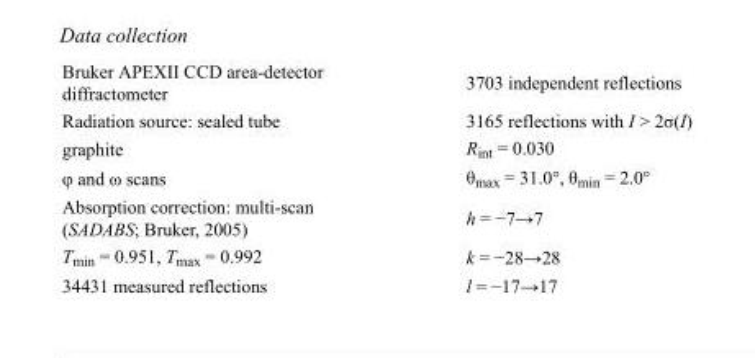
<table><tbody><tr><td>Bruker APEXII CCD area-detector diffractometer</td><td>3703 independent reflections</td></tr><tr><td>Radiation source: sealed tube</td><td>3165 reflections with I &gt; 2σ(I)</td></tr><tr><td>graphite</td><td>R<sub>int</sub> = 0.030</td></tr><tr><td>φ and ω scans</td><td>θ<sub>max</sub> = 31.0°, θ<sub>min</sub> = 2.0°</td></tr><tr><td>Absorption correction: multi-scan (SADABS; Bruker, 2005)</td><td>h = −7→7</td></tr><tr><td>T<sub>min</sub> = 0.951, T<sub>max</sub> = 0.992</td><td>k = −28→28</td></tr><tr><td>34431 measured reflections</td><td>l = −17→17</td></tr></tbody></table>